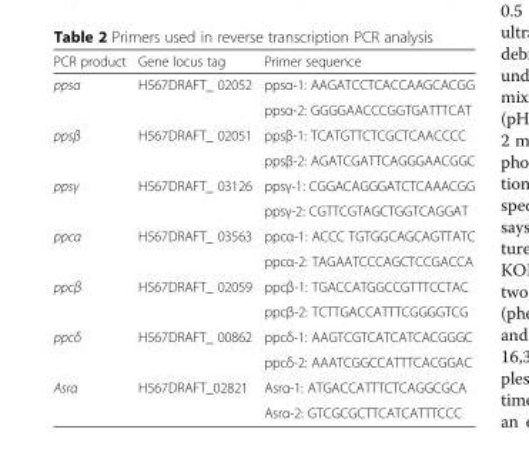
<table><thead><tr><td>PCR product</td><td>Gene locus tag</td><td>Primer sequence</td></tr></thead><tbody><tr><td rowspan="2">ppsα</td><td rowspan="2">H567DRAFT_ 02052</td><td>ppsα-1: AAGATCCTCACCAAGCACGG</td></tr><tr><td>ppsα-2: GGGGAACCCGGTGATTTCAT</td></tr><tr><td rowspan="2">ppsβ</td><td rowspan="2">H567DRAFT_ 02051</td><td>ppsβ-1: TCATGTTCTCGCTCAACCCC</td></tr><tr><td>ppsβ-2: AGATCGATTCAGGGAACGGC</td></tr><tr><td rowspan="2">ppsγ</td><td rowspan="2">H567DRAFT_ 03126</td><td>ppsγ-1: CGGACAGGGATCTCAAACGG</td></tr><tr><td>ppsγ-2: CGTTCGTAGCTGGTCAGGAT</td></tr><tr><td rowspan="2">ppcα</td><td rowspan="2">H567DRAFT_ 03563</td><td>ppcα-1: ACCC TGTGGCAGCAGTTATC</td></tr><tr><td>ppcα-2: TAGAATCCCAGCTCCGACCA</td></tr><tr><td rowspan="2">ppcβ</td><td rowspan="2">H567DRAFT_ 02059</td><td>ppcβ-1: TGACCATGGCCGTTTCCTAC</td></tr><tr><td>ppcβ-2: TCTTGACCATTTCGGGGTCG</td></tr><tr><td rowspan="2">ppcδ</td><td rowspan="2">H567DRAFT_ 00862</td><td>ppcδ-1: AAGTCGTCATCATCACGGGC</td></tr><tr><td>ppcδ-2: AAATCGGCCATTTCACGGAC</td></tr><tr><td rowspan="2">Asrα</td><td rowspan="2">H567DRAFT_02821</td><td>Asrα-1: ATGACCATTTCTCAGGCGCA</td></tr><tr><td>Asrα-2: GTCGCGCTTCATCATTTCCC</td></tr></tbody></table>